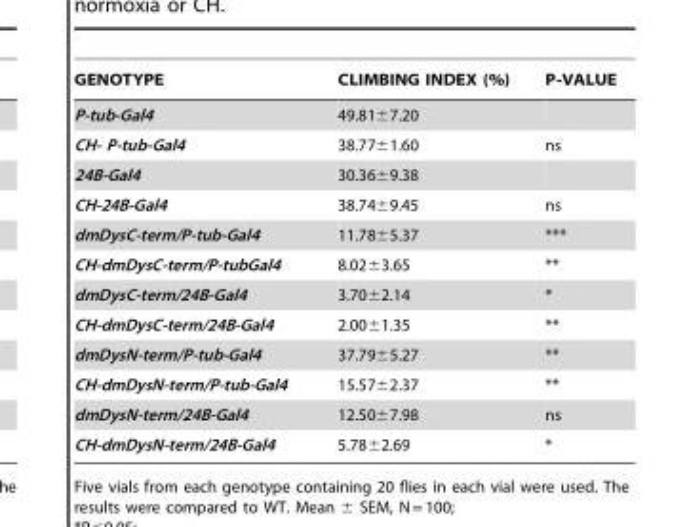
<table><thead><tr><td>GENOTYPE</td><td>CLIMBING INDEX (%)</td><td>P-VALUE</td></tr></thead><tbody><tr><td>P-tub-Gal4</td><td>49.81±7.20</td><td></td></tr><tr><td>CH- P-tub-Gal4</td><td>38.77±1.60</td><td>ns</td></tr><tr><td>24B-Gal4</td><td>30.36±9.38</td><td></td></tr><tr><td>CH-24B-Gal4</td><td>38.74±9.45</td><td>ns</td></tr><tr><td>dmDysC-term/P-tub-Gal4</td><td>11.78±5.37</td><td>***</td></tr><tr><td>CH-dmDysC-term/P-tubGal4</td><td>8.02±3.65</td><td>**</td></tr><tr><td>dmDysC-term/24B-Gal4</td><td>3.70±2.14</td><td>*</td></tr><tr><td>CH-dmDysC-term/24B-Gal4</td><td>2.00±1.35</td><td>**</td></tr><tr><td>dmDysN-term/P-tub-Gal4</td><td>37.79±5.27</td><td>**</td></tr><tr><td>CH-dmDysN-term/P-tub-Gal4</td><td>15.57±2.37</td><td>**</td></tr><tr><td>dmDysN-term/24B-Gal4</td><td>12.50±7.98</td><td>ns</td></tr><tr><td>CH-dmDysN-term/24B-Gal4</td><td>5.78±2.69</td><td>*</td></tr></tbody></table>